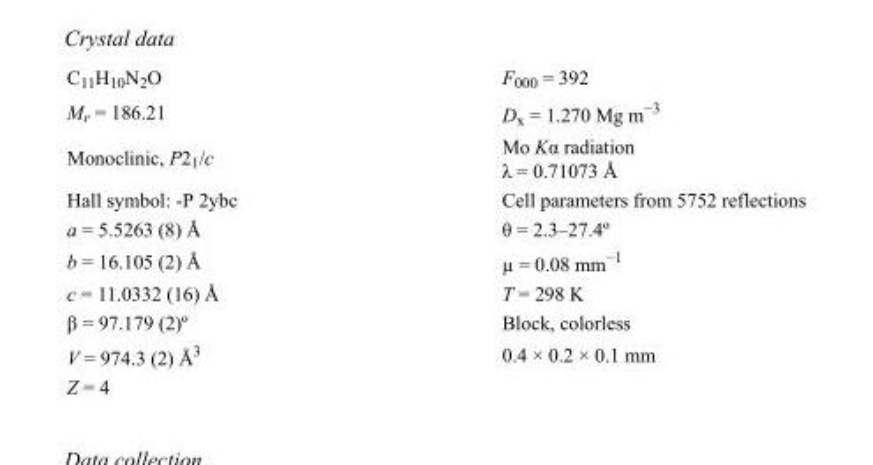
<table><tbody><tr><td>C<sub>11</sub>H<sub>10</sub>N<sub>2</sub>O</td><td>F000 = 392</td></tr><tr><td>M<sub>r</sub> = 186.21</td><td>D<sub>x</sub> = 1.270 Mg m<sup>−3</sup></td></tr><tr><td>Monoclinic, P2<sub>1</sub>/c</td><td>Mo Kα radiation λ = 0.71073 Å</td></tr><tr><td>Hall symbol: -P 2ybc</td><td>Cell parameters from 5752 reflections</td></tr><tr><td>a = 5.5263 (8) Å</td><td>θ = 2.3–27.4º</td></tr><tr><td>b = 16.105 (2) Å</td><td>µ = 0.08 mm<sup>−1</sup></td></tr><tr><td>c = 11.0332 (16) Å</td><td>T = 298 K</td></tr><tr><td>β = 97.179 (2)º</td><td>Block, colorless</td></tr><tr><td>V = 974.3 (2) Å<sup>3</sup></td><td>0.4 × 0.2 × 0.1 mm</td></tr><tr><td>Z = 4</td><td></td></tr></tbody></table>